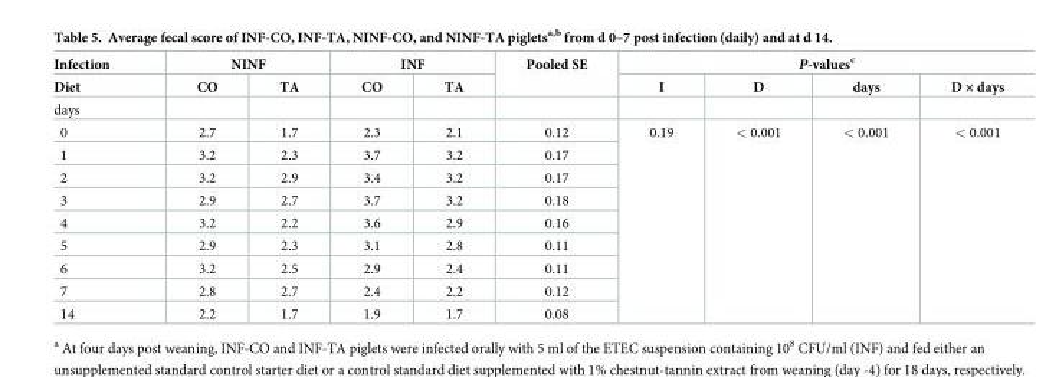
<table><thead><tr><td rowspan="2">Infection Diet</td><td colspan="2">NINF</td><td colspan="2">INF</td><td rowspan="2">Pooled SE</td><td colspan="4">P-values<sup>c</sup></td></tr><tr><td>CO</td><td>TA</td><td>CO</td><td>TA</td><td>I</td><td>D</td><td>days</td><td>D × days</td></tr></thead><tbody><tr><td colspan="10">days</td></tr><tr><td>0</td><td>2.7</td><td>1.7</td><td>2.3</td><td>2.1</td><td>0.12</td><td rowspan="9">0.19</td><td rowspan="9">&lt; 0.001</td><td rowspan="9">&lt; 0.001</td><td rowspan="9">&lt; 0.001</td></tr><tr><td>1</td><td>3.2</td><td>2.3</td><td>3.7</td><td>3.2</td><td>0.17</td></tr><tr><td>2</td><td>3.2</td><td>2.9</td><td>3.4</td><td>3.2</td><td>0.17</td></tr><tr><td>3</td><td>2.9</td><td>2.7</td><td>3.7</td><td>3.2</td><td>0.18</td></tr><tr><td>4</td><td>3.2</td><td>2.2</td><td>3.6</td><td>2.9</td><td>0.16</td></tr><tr><td>5</td><td>2.9</td><td>2.3</td><td>3.1</td><td>2.8</td><td>0.11</td></tr><tr><td>6</td><td>3.2</td><td>2.5</td><td>2.9</td><td>2.4</td><td>0.11</td></tr><tr><td>7</td><td>2.8</td><td>2.7</td><td>2.4</td><td>2.2</td><td>0.12</td></tr><tr><td>14</td><td>2.2</td><td>1.7</td><td>1.9</td><td>1.7</td><td>0.08</td></tr></tbody></table>